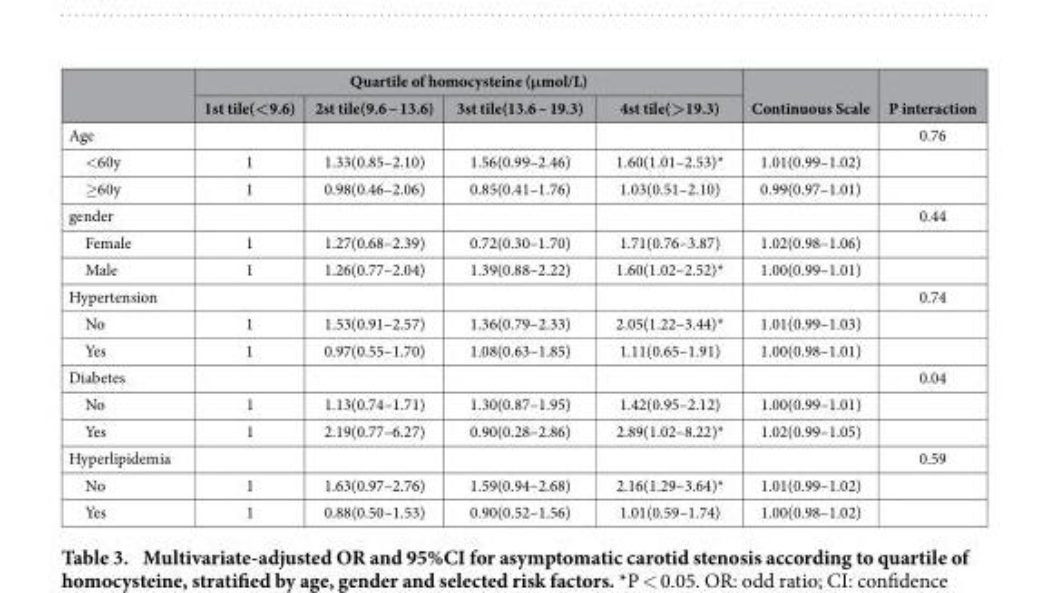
<table><thead><tr><td rowspan="2"></td><td colspan="4">Quartile of homocysteine (μmol/L)</td><td rowspan="2">Continuous Scale</td><td rowspan="2">P interaction</td></tr><tr><td>1st tile(&lt;9.6)</td><td>2st tile(9.6 ~ 13.6)</td><td>3st tile(13.6 ~ 19.3)</td><td>4st tile(&gt;19.3)</td></tr></thead><tbody><tr><td>Age</td><td></td><td></td><td></td><td></td><td></td><td>0.76</td></tr><tr><td>&lt; 60y</td><td>1</td><td>1.33(0.85–2.10)</td><td>1.56(0.99–2.46)</td><td>1.60(1.01–2.53)*</td><td>1.01(0.99–1.02)</td><td></td></tr><tr><td>≥ 60y</td><td>1</td><td>0.98(0.46–2.06)</td><td>0.85(0.41–1.76)</td><td>1.03(0.51–2.10)</td><td>0.99(0.97–1.01)</td><td></td></tr><tr><td>gender</td><td></td><td></td><td></td><td></td><td></td><td>0.44</td></tr><tr><td>Female</td><td>1</td><td>1.27(0.68–2.39)</td><td>0.72(0.30–1.70)</td><td>1.71(0.76–3.87)</td><td>1.02(0.98–1.06)</td><td></td></tr><tr><td>Male</td><td>1</td><td>1.26(0.77–2.04)</td><td>1.39(0.88–2.22)</td><td>1.60(1.02–2.52)*</td><td>1.00(0.99–1.01)</td><td></td></tr><tr><td>Hypertension</td><td></td><td></td><td></td><td></td><td></td><td>0.74</td></tr><tr><td>No</td><td>1</td><td>1.53(0.91–2.57)</td><td>1.36(0.79–2.33)</td><td>2.05(1.22–3.44)*</td><td>1.01(0.99–1.03)</td><td></td></tr><tr><td>Yes</td><td>1</td><td>0.97(0.55–1.70)</td><td>1.08(0.63–1.85)</td><td>1.11(0.65–1.91)</td><td>1.00(0.98–1.01)</td><td></td></tr><tr><td>Diabetes</td><td></td><td></td><td></td><td></td><td></td><td>0.04</td></tr><tr><td>No</td><td>1</td><td>1.13(0.74–1.71)</td><td>1.30(0.87–1.95)</td><td>1.42(0.95–2.12)</td><td>1.00(0.99–1.01)</td><td></td></tr><tr><td>Yes</td><td>1</td><td>2.19(0.77–6.27)</td><td>0.90(0.28–2.86)</td><td>2.89(1.02–8.22)*</td><td>1.02(0.99–1.05)</td><td></td></tr><tr><td>Hyperlipidemia</td><td></td><td></td><td></td><td></td><td></td><td>0.59</td></tr><tr><td>No</td><td>1</td><td>1.63(0.97–2.76)</td><td>1.59(0.94–2.68)</td><td>2.16(1.29–3.64)*</td><td>1.01(0.99–1.02)</td><td></td></tr><tr><td>Yes</td><td>1</td><td>0.88(0.50–1.53)</td><td>0.90(0.52–1.56)</td><td>1.01(0.59–1.74)</td><td>1.00(0.98–1.02)</td><td></td></tr></tbody></table>